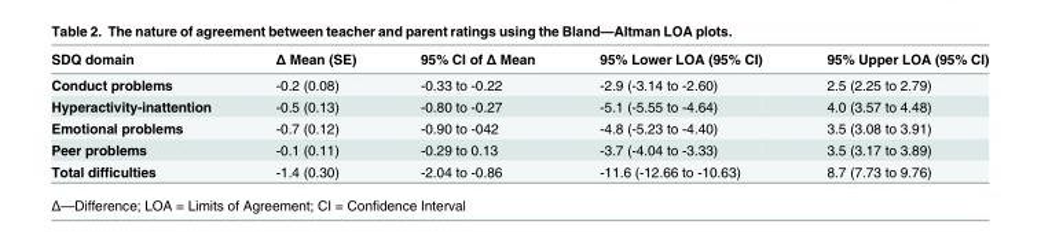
<table><thead><tr><td>SDQ domain</td><td>Δ Mean (SE)</td><td>95% CI of Δ Mean</td><td>95% Lower LOA (95% CI)</td><td>95% Upper LOA (95% CI)</td></tr></thead><tbody><tr><td>Conduct problems</td><td>-0.2 (0.08)</td><td>-0.33 to -0.22</td><td>-2.9 (-3.14 to -2.60)</td><td>2.5 (2.25 to 2.79)</td></tr><tr><td>Hyperactivity-inattention</td><td>-0.5 (0.13)</td><td>-0.80 to -0.27</td><td>-5.1 (-5.55 to -4.64)</td><td>4.0 (3.57 to 4.48)</td></tr><tr><td>Emotional problems</td><td>-0.7 (0.12)</td><td>-0.90 to -042</td><td>-4.8 (-5.23 to -4.40)</td><td>3.5 (3.08 to 3.91)</td></tr><tr><td>Peer problems</td><td>-0.1 (0.11)</td><td>-0.29 to 0.13</td><td>-3.7 (-4.04 to -3.33)</td><td>3.5 (3.17 to 3.89)</td></tr><tr><td>Total difficulties</td><td>-1.4 (0.30)</td><td>-2.04 to -0.86</td><td>-11.6 (-12.66 to -10.63)</td><td>8.7 (7.73 to 9.76)</td></tr></tbody></table>